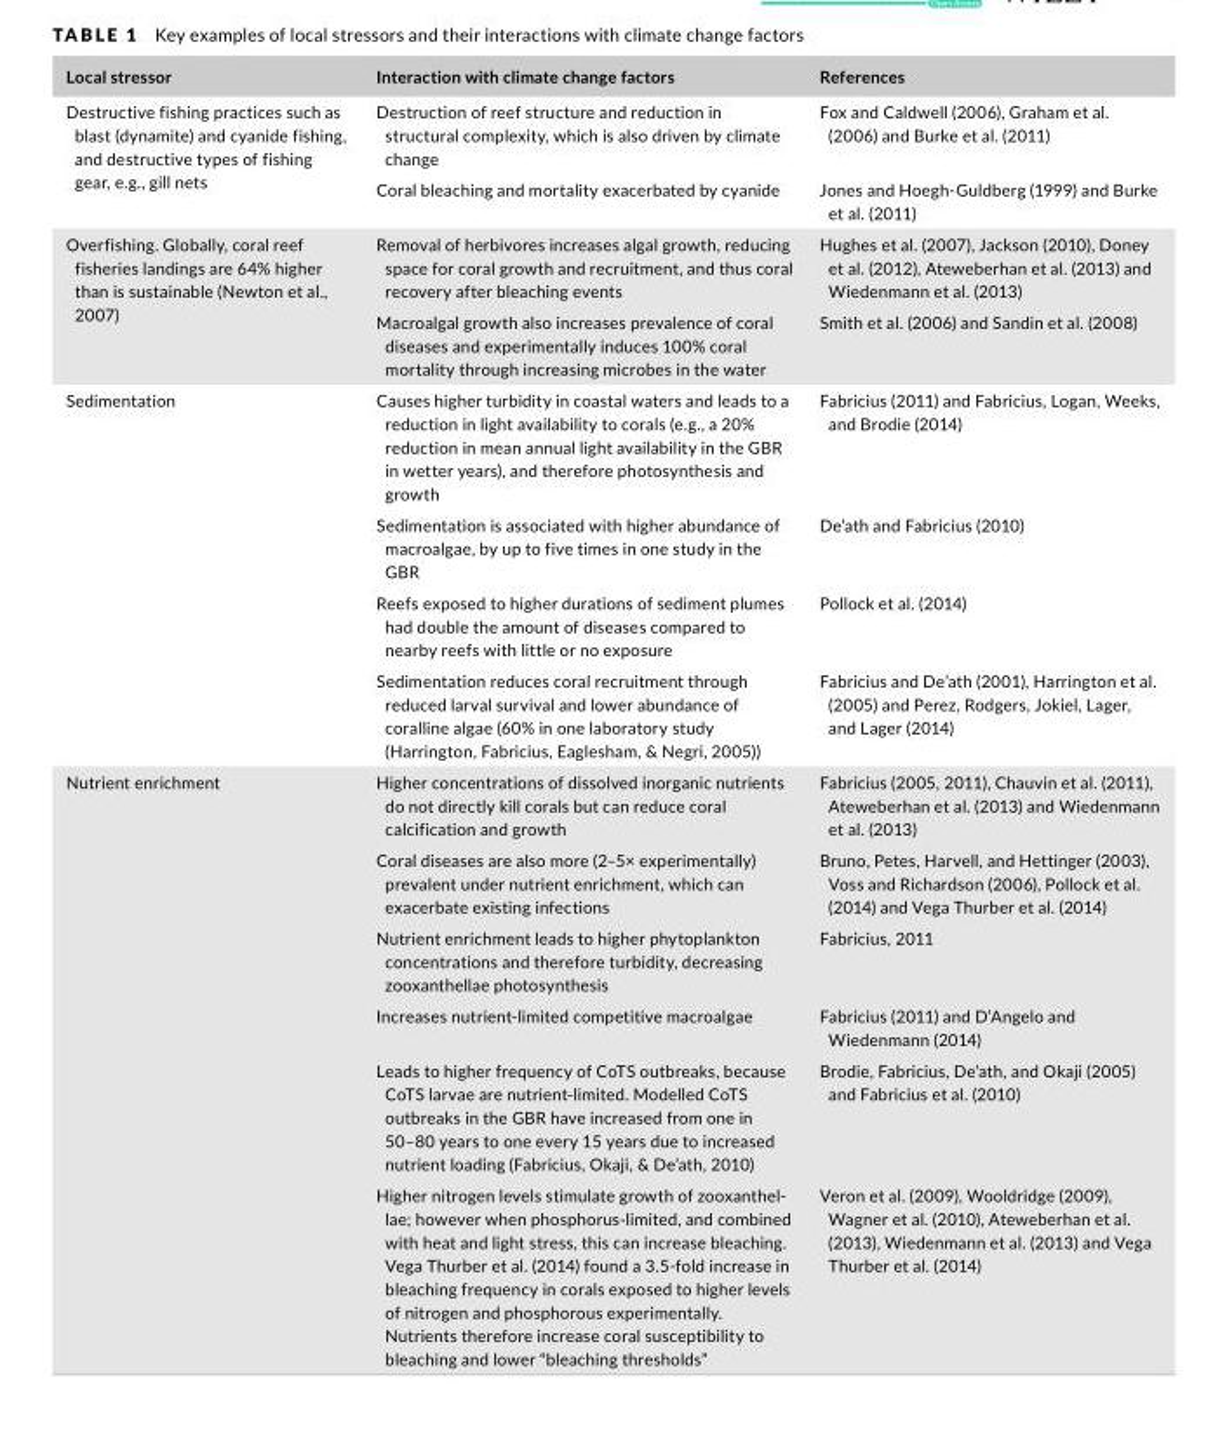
<table><thead><tr><td>Local stressor</td><td>Interaction with climate change factors</td><td>References</td></tr></thead><tbody><tr><td rowspan="2">Destructive fishing practices such as blast (dynamite) and cyanide fishing, and destructive types of fishing gear, e.g., gill nets</td><td>Destruction of reef structure and reduction in structural complexity, which is also driven by climate change</td><td>Fox and Caldwell (2006), Graham et al. (2006) and Burke et al. (2011)</td></tr><tr><td>Coral bleaching and mortality exacerbated by cyanide</td><td>Jones and Hoegh- Guldberg (1999) and Burke et al. (2011)</td></tr><tr><td rowspan="2">Overfishing. Globally, coral reef fisheries landings are 64% higher than is sustainable (Newton et al., 2007)</td><td>Removal of herbivores increases algal growth, reducing space for coral growth and recruitment, and thus coral recovery after bleaching events</td><td>Hughes et al. (2007), Jackson (2010), Doney et al. (2012), Ateweberhan et al. (2013) and Wiedenmann et al. (2013)</td></tr><tr><td>Macroalgal growth also increases prevalence of coral diseases and experimentally induces 100% coral mortality through increasing microbes in the water</td><td>Smith et al. (2006) and Sandin et al. (2008)</td></tr><tr><td rowspan="4">Sedimentation</td><td>Causes higher turbidity in coastal waters and leads to a reduction in light availability to corals (e.g., a 20% reduction in mean annual light availability in the GBR in wetter years), and therefore photosynthesis and growth</td><td>Fabricius (2011) and Fabricius, Logan, Weeks, and Brodie (2014)</td></tr><tr><td>Sedimentation is associated with higher abundance of macroalgae, by up to five times in one study in the GBR</td><td>De’ath and Fabricius (2010)</td></tr><tr><td>Reefs exposed to higher durations of sediment plumes had double the amount of diseases compared to nearby reefs with little or no exposure</td><td>Pollock et al. (2014)</td></tr><tr><td>Sedimentation reduces coral recruitment through reduced larval survival and lower abundance of coralline algae (60% in one laboratory study (Harrington, Fabricius, Eaglesham, &amp; Negri, 2005))</td><td>Fabricius and De’ath (2001), Harrington et al. (2005) and Perez, Rodgers, Jokiel, Lager, and Lager (2014)</td></tr><tr><td rowspan="6">Nutrient enrichment</td><td>Higher concentrations of dissolved inorganic nutrients do not directly kill corals but can reduce coral calcification and growth</td><td>Fabricius (2005, 2011), Chauvin et al. (2011), Ateweberhan et al. (2013) and Wiedenmann et al. (2013)</td></tr><tr><td>Coral diseases are also more (2–5× experimentally) prevalent under nutrient enrichment, which can exacerbate existing infections</td><td>Bruno, Petes, Harvell, and Hettinger (2003), Voss and Richardson (2006), Pollock et al. (2014) and Vega Thurber et al. (2014)</td></tr><tr><td>Nutrient enrichment leads to higher phytoplankton concentrations and therefore turbidity, decreasing zooxanthellae photosynthesis</td><td>Fabricius, 2011</td></tr><tr><td>Increases nutrient- limited competitive macroalgae</td><td>Fabricius (2011) and D’Angelo and Wiedenmann (2014)</td></tr><tr><td>Leads to higher frequency of CoTS outbreaks, because CoTS larvae are nutrient- limited. Modelled CoTS outbreaks in the GBR have increased from one in 50–80 years to one every 15 years due to increased nutrient loading (Fabricius, Okaji, &amp; De’ath, 2010)</td><td>Brodie, Fabricius, De’ath, and Okaji (2005) and Fabricius et al. (2010)</td></tr><tr><td>Higher nitrogen levels stimulate growth of zooxanthel- lae; however when phosphorus- limited, and combined with heat and light stress, this can increase bleaching. Vega Thurber et al. (2014) found a 3.5- fold increase in bleaching frequency in corals exposed to higher levels of nitrogen and phosphorous experimentally. Nutrients therefore increase coral susceptibility to bleaching and lower “bleaching thresholds”</td><td>Veron et al. (2009), Wooldridge (2009), Wagner et al. (2010), Ateweberhan et al. (2013), Wiedenmann et al. (2013) and Vega Thurber et al. (2014)</td></tr></tbody></table>